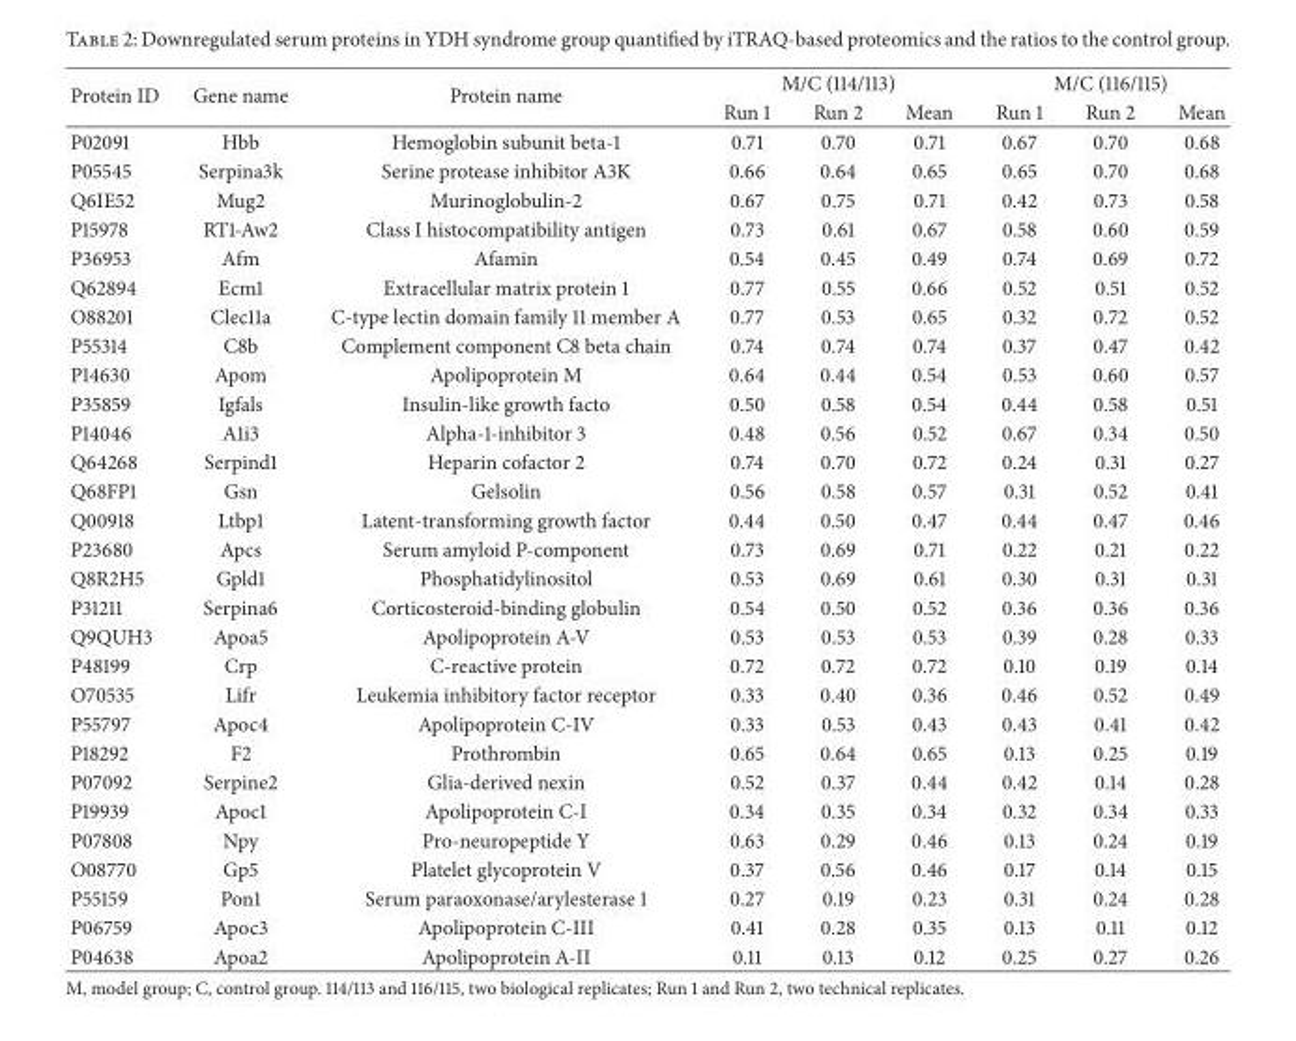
<table><thead><tr><td rowspan="2">Protein ID</td><td rowspan="2">Gene name</td><td rowspan="2">Protein name</td><td colspan="3">M/C (114/113)</td><td colspan="3">M/C (116/115)</td></tr><tr><td>Run 1</td><td>Run 2</td><td>Mean</td><td>Run 1</td><td>Run 2</td><td>Mean</td></tr></thead><tbody><tr><td>P02091</td><td>Hbb</td><td>Hemoglobin subunit beta-1</td><td>0.71</td><td>0.70</td><td>0.71</td><td>0.67</td><td>0.70</td><td>0.68</td></tr><tr><td>P05545</td><td>Serpina3k</td><td>Serine protease inhibitor A3K</td><td>0.66</td><td>0.64</td><td>0.65</td><td>0.65</td><td>0.70</td><td>0.68</td></tr><tr><td>Q6IE52</td><td>Mug2</td><td>Murinoglobulin-2</td><td>0.67</td><td>0.75</td><td>0.71</td><td>0.42</td><td>0.73</td><td>0.58</td></tr><tr><td>P15978</td><td>RT1-Aw2</td><td>Class I histocompatibility antigen</td><td>0.73</td><td>0.61</td><td>0.67</td><td>0.58</td><td>0.60</td><td>0.59</td></tr><tr><td>P36953</td><td>Afm</td><td>Afamin</td><td>0.54</td><td>0.45</td><td>0.49</td><td>0.74</td><td>0.69</td><td>0.72</td></tr><tr><td>Q62894</td><td>Ecm1</td><td>Extracellular matrix protein 1</td><td>0.77</td><td>0.55</td><td>0.66</td><td>0.52</td><td>0.51</td><td>0.52</td></tr><tr><td>O88201</td><td>Clec11a</td><td>C-type lectin domain family 11 member A</td><td>0.77</td><td>0.53</td><td>0.65</td><td>0.32</td><td>0.72</td><td>0.52</td></tr><tr><td>P55314</td><td>C8b</td><td>Complement component C8 beta chain</td><td>0.74</td><td>0.74</td><td>0.74</td><td>0.37</td><td>0.47</td><td>0.42</td></tr><tr><td>P14630</td><td>Apom</td><td>Apolipoprotein M</td><td>0.64</td><td>0.44</td><td>0.54</td><td>0.53</td><td>0.60</td><td>0.57</td></tr><tr><td>P35859</td><td>Igfals</td><td>Insulin-like growth facto</td><td>0.50</td><td>0.58</td><td>0.54</td><td>0.44</td><td>0.58</td><td>0.51</td></tr><tr><td>P14046</td><td>A1i3</td><td>Alpha-1-inhibitor 3</td><td>0.48</td><td>0.56</td><td>0.52</td><td>0.67</td><td>0.34</td><td>0.50</td></tr><tr><td>Q64268</td><td>Serpind1</td><td>Heparin cofactor 2</td><td>0.74</td><td>0.70</td><td>0.72</td><td>0.24</td><td>0.31</td><td>0.27</td></tr><tr><td>Q68FP1</td><td>Gsn</td><td>Gelsolin</td><td>0.56</td><td>0.58</td><td>0.57</td><td>0.31</td><td>0.52</td><td>0.41</td></tr><tr><td>Q00918</td><td>Ltbp1</td><td>Latent-transforming growth factor</td><td>0.44</td><td>0.50</td><td>0.47</td><td>0.44</td><td>0.47</td><td>0.46</td></tr><tr><td>P23680</td><td>Apcs</td><td>Serum amyloid P-component</td><td>0.73</td><td>0.69</td><td>0.71</td><td>0.22</td><td>0.21</td><td>0.22</td></tr><tr><td>Q8R2H5</td><td>Gpld1</td><td>Phosphatidylinositol</td><td>0.53</td><td>0.69</td><td>0.61</td><td>0.30</td><td>0.31</td><td>0.31</td></tr><tr><td>P31211</td><td>Serpina6</td><td>Corticosteroid-binding globulin</td><td>0.54</td><td>0.50</td><td>0.52</td><td>0.36</td><td>0.36</td><td>0.36</td></tr><tr><td>Q9QUH3</td><td>Apoa5</td><td>Apolipoprotein A-V</td><td>0.53</td><td>0.53</td><td>0.53</td><td>0.39</td><td>0.28</td><td>0.33</td></tr><tr><td>P48199</td><td>Crp</td><td>C-reactive protein</td><td>0.72</td><td>0.72</td><td>0.72</td><td>0.10</td><td>0.19</td><td>0.14</td></tr><tr><td>O70535</td><td>Lifr</td><td>Leukemia inhibitory factor receptor</td><td>0.33</td><td>0.40</td><td>0.36</td><td>0.46</td><td>0.52</td><td>0.49</td></tr><tr><td>P55797</td><td>Apoc4</td><td>Apolipoprotein C-IV</td><td>0.33</td><td>0.53</td><td>0.43</td><td>0.43</td><td>0.41</td><td>0.42</td></tr><tr><td>P18292</td><td>F2</td><td>Prothrombin</td><td>0.65</td><td>0.64</td><td>0.65</td><td>0.13</td><td>0.25</td><td>0.19</td></tr><tr><td>P07092</td><td>Serpine2</td><td>Glia-derived nexin</td><td>0.52</td><td>0.37</td><td>0.44</td><td>0.42</td><td>0.14</td><td>0.28</td></tr><tr><td>P19939</td><td>Apoc1</td><td>Apolipoprotein C-I</td><td>0.34</td><td>0.35</td><td>0.34</td><td>0.32</td><td>0.34</td><td>0.33</td></tr><tr><td>P07808</td><td>Npy</td><td>Pro-neuropeptide Y</td><td>0.63</td><td>0.29</td><td>0.46</td><td>0.13</td><td>0.24</td><td>0.19</td></tr><tr><td>O08770</td><td>Gp5</td><td>Platelet glycoprotein V</td><td>0.37</td><td>0.56</td><td>0.46</td><td>0.17</td><td>0.14</td><td>0.15</td></tr><tr><td>P55159</td><td>Pon1</td><td>Serum paraoxonase/arylesterase 1</td><td>0.27</td><td>0.19</td><td>0.23</td><td>0.31</td><td>0.24</td><td>0.28</td></tr><tr><td>P06759</td><td>Apoc3</td><td>Apolipoprotein C-III</td><td>0.41</td><td>0.28</td><td>0.35</td><td>0.13</td><td>0.11</td><td>0.12</td></tr><tr><td>P04638</td><td>Apoa2</td><td>Apolipoprotein A-II</td><td>0.11</td><td>0.13</td><td>0.12</td><td>0.25</td><td>0.27</td><td>0.26</td></tr></tbody></table>